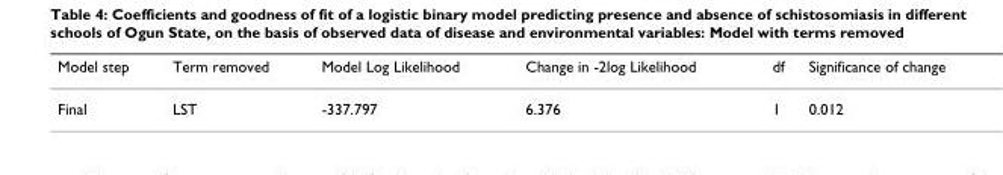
<table><thead><tr><td>Model step</td><td>Term removed</td><td>Model Log Likelihood</td><td>Change in -2log Likelihood</td><td>df</td><td>Significance of change</td></tr></thead><tbody><tr><td>Final</td><td>LST</td><td>-337.797</td><td>6.376</td><td>1</td><td>0.012</td></tr></tbody></table>